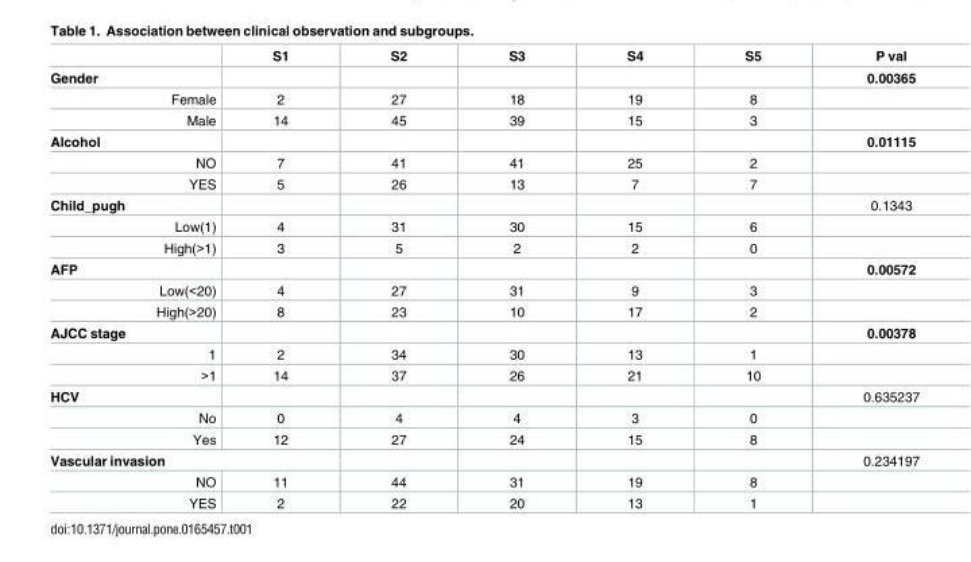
<table><thead><tr><td></td><td>S1</td><td>S2</td><td>S3</td><td>S4</td><td>S5</td><td>P val</td></tr></thead><tbody><tr><td>Gender</td><td></td><td></td><td></td><td></td><td></td><td>0.00365</td></tr><tr><td>Female</td><td>2</td><td>27</td><td>18</td><td>19</td><td>8</td><td></td></tr><tr><td>Male</td><td>14</td><td>45</td><td>39</td><td>15</td><td>3</td><td></td></tr><tr><td>Alcohol</td><td></td><td></td><td></td><td></td><td></td><td>0.01115</td></tr><tr><td>NO</td><td>7</td><td>41</td><td>41</td><td>25</td><td>2</td><td></td></tr><tr><td>YES</td><td>5</td><td>26</td><td>13</td><td>7</td><td>7</td><td></td></tr><tr><td>Child_pugh</td><td></td><td></td><td></td><td></td><td></td><td>0.1343</td></tr><tr><td>Low(1)</td><td>4</td><td>31</td><td>30</td><td>15</td><td>6</td><td></td></tr><tr><td>High(&gt;1)</td><td>3</td><td>5</td><td>2</td><td>2</td><td>0</td><td></td></tr><tr><td>AFP</td><td></td><td></td><td></td><td></td><td></td><td>0.00572</td></tr><tr><td>Low(&lt;20)</td><td>4</td><td>27</td><td>31</td><td>9</td><td>3</td><td></td></tr><tr><td>High(&gt;20)</td><td>8</td><td>23</td><td>10</td><td>17</td><td>2</td><td></td></tr><tr><td>AJCC stage</td><td></td><td></td><td></td><td></td><td></td><td>0.00378</td></tr><tr><td>1</td><td>2</td><td>34</td><td>30</td><td>13</td><td>1</td><td></td></tr><tr><td>&gt;1</td><td>14</td><td>37</td><td>26</td><td>21</td><td>10</td><td></td></tr><tr><td>HCV</td><td></td><td></td><td></td><td></td><td></td><td>0.635237</td></tr><tr><td>No</td><td>0</td><td>4</td><td>4</td><td>3</td><td>0</td><td></td></tr><tr><td>Yes</td><td>12</td><td>27</td><td>24</td><td>15</td><td>8</td><td></td></tr><tr><td colspan="2">Vascular invasion</td><td></td><td></td><td></td><td></td><td>0.234197</td></tr><tr><td>NO</td><td>11</td><td>44</td><td>31</td><td>19</td><td>8</td><td></td></tr><tr><td>YES</td><td>2</td><td>22</td><td>20</td><td>13</td><td>1</td><td></td></tr></tbody></table>